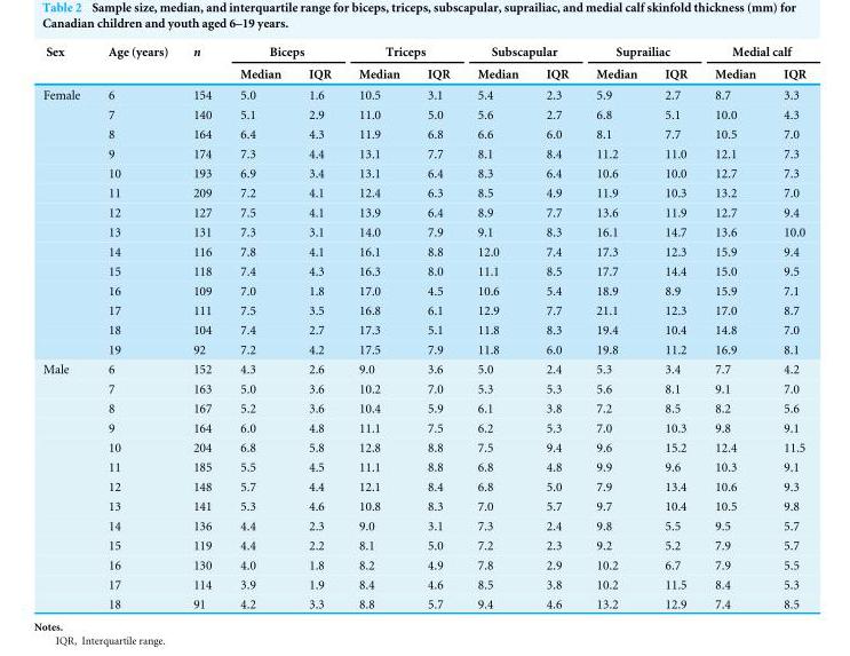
<table><thead><tr><td rowspan="2">Sex</td><td rowspan="2">Age (years)</td><td rowspan="2">n</td><td colspan="2">Biceps</td><td colspan="2">Triceps</td><td colspan="2">Subscapular</td><td colspan="2">Suprailiac</td><td colspan="2">Medial calf</td></tr><tr><td>Median</td><td>IQR</td><td>Median</td><td>IQR</td><td>Median</td><td>IQR</td><td>Median</td><td>IQR</td><td>Median</td><td>IQR</td></tr></thead><tbody><tr><td rowspan="14">Female</td><td>6</td><td>154</td><td>5.0</td><td>1.6</td><td>10.5</td><td>3.1</td><td>5.4</td><td>2.3</td><td>5.9</td><td>2.7</td><td>8.7</td><td>3.3</td></tr><tr><td>7</td><td>140</td><td>5.1</td><td>2.9</td><td>11.0</td><td>5.0</td><td>5.6</td><td>2.7</td><td>6.8</td><td>5.1</td><td>10.0</td><td>4.3</td></tr><tr><td>8</td><td>164</td><td>6.4</td><td>4.3</td><td>11.9</td><td>6.8</td><td>6.6</td><td>6.0</td><td>8.1</td><td>7.7</td><td>10.5</td><td>7.0</td></tr><tr><td>9</td><td>174</td><td>7.3</td><td>4.4</td><td>13.1</td><td>7.7</td><td>8.1</td><td>8.4</td><td>11.2</td><td>11.0</td><td>12.1</td><td>7.3</td></tr><tr><td>10</td><td>193</td><td>6.9</td><td>3.4</td><td>13.1</td><td>6.4</td><td>8.3</td><td>6.4</td><td>10.6</td><td>10.0</td><td>12.7</td><td>7.3</td></tr><tr><td>11</td><td>209</td><td>7.2</td><td>4.1</td><td>12.4</td><td>6.3</td><td>8.5</td><td>4.9</td><td>11.9</td><td>10.3</td><td>13.2</td><td>7.0</td></tr><tr><td>12</td><td>127</td><td>7.5</td><td>4.1</td><td>13.9</td><td>6.4</td><td>8.9</td><td>7.7</td><td>13.6</td><td>11.9</td><td>12.7</td><td>9.4</td></tr><tr><td>13</td><td>131</td><td>7.3</td><td>3.1</td><td>14.0</td><td>7.9</td><td>9.1</td><td>8.3</td><td>16.1</td><td>14.7</td><td>13.6</td><td>10.0</td></tr><tr><td>14</td><td>116</td><td>7.8</td><td>4.1</td><td>16.1</td><td>8.8</td><td>12.0</td><td>7.4</td><td>17.3</td><td>12.3</td><td>15.9</td><td>9.4</td></tr><tr><td>15</td><td>118</td><td>7.4</td><td>4.3</td><td>16.3</td><td>8.0</td><td>11.1</td><td>8.5</td><td>17.7</td><td>14.4</td><td>15.0</td><td>9.5</td></tr><tr><td>16</td><td>109</td><td>7.0</td><td>1.8</td><td>17.0</td><td>4.5</td><td>10.6</td><td>5.4</td><td>18.9</td><td>8.9</td><td>15.9</td><td>7.1</td></tr><tr><td>17</td><td>111</td><td>7.5</td><td>3.5</td><td>16.8</td><td>6.1</td><td>12.9</td><td>7.7</td><td>21.1</td><td>12.3</td><td>17.0</td><td>8.7</td></tr><tr><td>18</td><td>104</td><td>7.4</td><td>2.7</td><td>17.3</td><td>5.1</td><td>11.8</td><td>8.3</td><td>19.4</td><td>10.4</td><td>14.8</td><td>7.0</td></tr><tr><td>19</td><td>92</td><td>7.2</td><td>4.2</td><td>17.5</td><td>7.9</td><td>11.8</td><td>6.0</td><td>19.8</td><td>11.2</td><td>16.9</td><td>8.1</td></tr><tr><td rowspan="13">Male</td><td>6</td><td>152</td><td>4.3</td><td>2.6</td><td>9.0</td><td>3.6</td><td>5.0</td><td>2.4</td><td>5.3</td><td>3.4</td><td>7.7</td><td>4.2</td></tr><tr><td>7</td><td>163</td><td>5.0</td><td>3.6</td><td>10.2</td><td>7.0</td><td>5.3</td><td>5.3</td><td>5.6</td><td>8.1</td><td>9.1</td><td>7.0</td></tr><tr><td>8</td><td>167</td><td>5.2</td><td>3.6</td><td>10.4</td><td>5.9</td><td>6.1</td><td>3.8</td><td>7.2</td><td>8.5</td><td>8.2</td><td>5.6</td></tr><tr><td>9</td><td>164</td><td>6.0</td><td>4.8</td><td>11.1</td><td>7.5</td><td>6.2</td><td>5.3</td><td>7.0</td><td>10.3</td><td>9.8</td><td>9.1</td></tr><tr><td>10</td><td>204</td><td>6.8</td><td>5.8</td><td>12.8</td><td>8.8</td><td>7.5</td><td>9.4</td><td>9.6</td><td>15.2</td><td>12.4</td><td>11.5</td></tr><tr><td>11</td><td>185</td><td>5.5</td><td>4.5</td><td>11.1</td><td>8.8</td><td>6.8</td><td>4.8</td><td>9.9</td><td>9.6</td><td>10.3</td><td>9.1</td></tr><tr><td>12</td><td>148</td><td>5.7</td><td>4.4</td><td>12.1</td><td>8.4</td><td>6.8</td><td>5.0</td><td>7.9</td><td>13.4</td><td>10.6</td><td>9.3</td></tr><tr><td>13</td><td>141</td><td>5.3</td><td>4.6</td><td>10.8</td><td>8.3</td><td>7.0</td><td>5.7</td><td>9.7</td><td>10.4</td><td>10.5</td><td>9.8</td></tr><tr><td>14</td><td>136</td><td>4.4</td><td>2.3</td><td>9.0</td><td>3.1</td><td>7.3</td><td>2.4</td><td>9.8</td><td>5.5</td><td>9.5</td><td>5.7</td></tr><tr><td>15</td><td>119</td><td>4.4</td><td>2.2</td><td>8.1</td><td>5.0</td><td>7.2</td><td>2.3</td><td>9.2</td><td>5.2</td><td>7.9</td><td>5.7</td></tr><tr><td>16</td><td>130</td><td>4.0</td><td>1.8</td><td>8.2</td><td>4.9</td><td>7.8</td><td>2.9</td><td>10.2</td><td>6.7</td><td>7.9</td><td>5.5</td></tr><tr><td>17</td><td>114</td><td>3.9</td><td>1.9</td><td>8.4</td><td>4.6</td><td>8.5</td><td>3.8</td><td>10.2</td><td>11.5</td><td>8.4</td><td>5.3</td></tr><tr><td>18</td><td>91</td><td>4.2</td><td>3.3</td><td>8.8</td><td>5.7</td><td>9.4</td><td>4.6</td><td>13.2</td><td>12.9</td><td>7.4</td><td>8.5</td></tr></tbody></table>